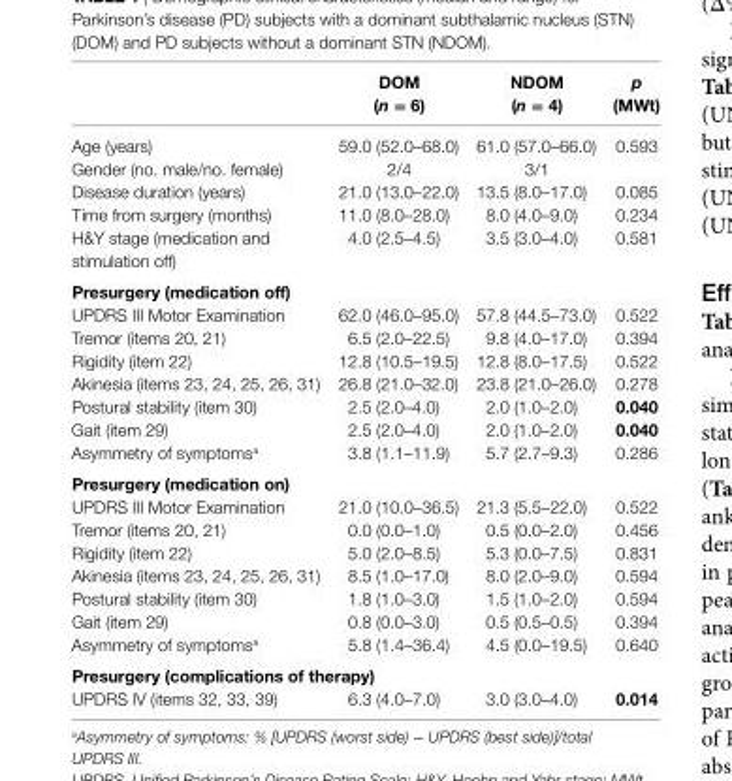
<table><thead><tr><td></td><td>DOM (n = 6)</td><td>nDOM (n = 4)</td><td>p (MWt)</td></tr></thead><tbody><tr><td>Age (years)</td><td>59.0 (52.0–68.0)</td><td>61.0 (57.0–66.0)</td><td>0.593</td></tr><tr><td>Gender (no. male/no. female)</td><td>2/4</td><td>3/1</td><td></td></tr><tr><td>Disease duration (years)</td><td>21.0 (13.0–22.0)</td><td>13.5 (8.0–17.0)</td><td>0.085</td></tr><tr><td>Time from surgery (months)</td><td>11.0 (8.0–28.0)</td><td>8.0 (4.0–9.0)</td><td>0.234</td></tr><tr><td>H&amp;Y stage (medication and stimulation off)</td><td>4.0 (2.5–4.5)</td><td>3.5 (3.0–4.0)</td><td>0.581</td></tr><tr><td colspan="4">Presurgery (medication off)</td></tr><tr><td>UPDRS III Motor Examination</td><td>62.0 (46.0–95.0)</td><td>57.8 (44.5–73.0)</td><td>0.522</td></tr><tr><td>Tremor (items 20, 21)</td><td>6.5 (2.0–22.5)</td><td>9.8 (4.0–17.0)</td><td>0.394</td></tr><tr><td>Rigidity (item 22)</td><td>12.8 (10.5–19.5)</td><td>12.8 (8.0–17.5)</td><td>0.522</td></tr><tr><td>Akinesia (items 23, 24, 25, 26, 31)</td><td>26.8 (21.0–32.0)</td><td>23.8 (21.0–26.0)</td><td>0.278</td></tr><tr><td>Postural stability (item 30)</td><td>2.5 (2.0–4.0)</td><td>2.0 (1.0–2.0)</td><td>0.040</td></tr><tr><td>Gait (item 29)</td><td>2.5 (2.0–4.0)</td><td>2.0 (1.0–2.0)</td><td>0.040</td></tr><tr><td>Asymmetry of symptoms<sup>a</sup></td><td>3.8 (1.1–11.9)</td><td>5.7 (2.7–9.3)</td><td>0.286</td></tr><tr><td colspan="4">Presurgery (medication on)</td></tr><tr><td>UPDRS III Motor Examination</td><td>21.0 (10.0–36.5)</td><td>21.3 (5.5–22.0)</td><td>0.522</td></tr><tr><td>Tremor (items 20, 21)</td><td>0.0 (0.0–1.0)</td><td>0.5 (0.0–2.0)</td><td>0.456</td></tr><tr><td>Rigidity (item 22)</td><td>5.0 (2.0–8.5)</td><td>5.3 (0.0–7.5)</td><td>0.831</td></tr><tr><td>Akinesia (items 23, 24, 25, 26, 31)</td><td>8.5 (1.0–17.0)</td><td>8.0 (2.0–9.0)</td><td>0.594</td></tr><tr><td>Postural stability (item 30)</td><td>1.8 (1.0–3.0)</td><td>1.5 (1.0–2.0)</td><td>0.594</td></tr><tr><td>Gait (item 29)</td><td>0.8 (0.0–3.0)</td><td>0.5 (0.5–0.5)</td><td>0.394</td></tr><tr><td>Asymmetry of symptoms<sup>a</sup></td><td>5.8 (1.4–36.4)</td><td>4.5 (0.0–19.5)</td><td>0.640</td></tr><tr><td colspan="4">Presurgery (complications of therapy)</td></tr><tr><td>UPDRS IV (items 32, 33, 39)</td><td>6.3 (4.0–7.0)</td><td>3.0 (3.0–4.0)</td><td>0.014</td></tr></tbody></table>